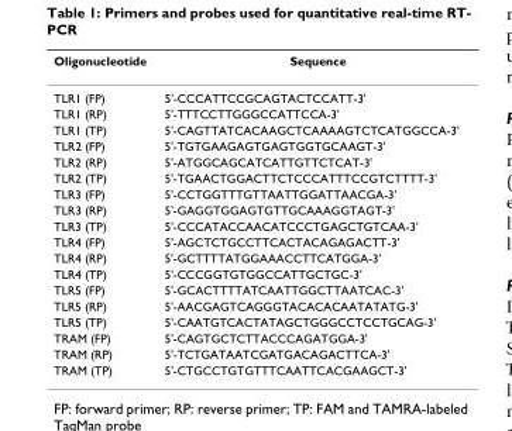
<table><thead><tr><td>Oligonucleotide</td><td>Sequence</td></tr></thead><tbody><tr><td>TLR1 (FP)</td><td>5&#x27;-CCCATTCCGCAGTACTCCATT-3&#x27;</td></tr><tr><td>TLR1 (RP)</td><td>5&#x27;-TTTCCTTGGGCCATTCCA-3&#x27;</td></tr><tr><td>TLR1 (TP)</td><td>5&#x27;-CAGTTATCACAAGCTCAAAAGTCTCATGGCCA-3&#x27;</td></tr><tr><td>TLR2 (FP)</td><td>5&#x27;-TGTGAAGAGTGAGTGGTGCAAGT-3&#x27;</td></tr><tr><td>TLR2 (RP)</td><td>5&#x27;-ATGGCAGCATCATTGTTCTCAT-3&#x27;</td></tr><tr><td>TLR2 (TP)</td><td>5&#x27;-TGAACTGGACTTCTCCCATTTCCGTCTTTT-3&#x27;</td></tr><tr><td>TLR3 (FP)</td><td>5&#x27;-CCTGGTTTGTTAATTGGATTAACGA-3&#x27;</td></tr><tr><td>TLR3 (RP)</td><td>5&#x27;-GAGGTGGAGTGTTGCAAAGGTAGT-3&#x27;</td></tr><tr><td>TLR3 (TP)</td><td>5&#x27;-CCCATACCAACATCCCTGAGCTGTCAA-3&#x27;</td></tr><tr><td>TLR4 (FP)</td><td>5&#x27;-AGCTCTGCCTTCACTACAGAGACTT-3&#x27;</td></tr><tr><td>TLR4 (RP)</td><td>5&#x27;-GCTTTTATGGAAACCTTCATGGA-3&#x27;</td></tr><tr><td>TLR4 (TP)</td><td>5&#x27;-CCCGGTGTGGCCATTGCTGC-3&#x27;</td></tr><tr><td>TLR5 (FP)</td><td>5&#x27;-GCACTTTTATCAATTGGCTTAATCAC-3&#x27;</td></tr><tr><td>TLR5 (RP)</td><td>5&#x27;-AACGAGTCAGGGTACACACAATATATG-3&#x27;</td></tr><tr><td>TLR5 (TP)</td><td>5&#x27;-CAATGTCACTATAGCTGGGCCTCCTGCAG-3&#x27;</td></tr><tr><td>TRAM (FP)</td><td>5&#x27;-CAGTGCTCTTACCCAGATGGA-3&#x27;</td></tr><tr><td>TRAM (RP)</td><td>5&#x27;-TCTGATAATCGATGACAGACTTCA-3&#x27;</td></tr><tr><td>TRAM (TP)</td><td>5&#x27;-CTGCCTGTGTTTCAATTCACGAAGCT-3&#x27;</td></tr></tbody></table>